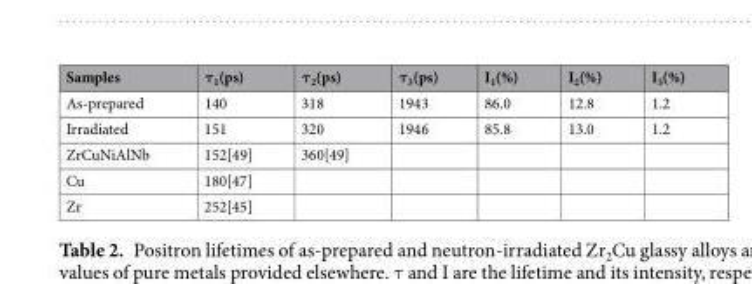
<table><thead><tr><td>Samples</td><td>τ<sub>1</sub>(ps)</td><td>τ<sub>2</sub>(ps)</td><td>τ<sub>3</sub>(ps)</td><td>I<sub>1</sub>(%)</td><td>I<sub>2</sub>(%)</td><td>I<sub>3</sub>(%)</td></tr></thead><tbody><tr><td>As-prepared</td><td>140</td><td>318</td><td>1943</td><td>86.0</td><td>12.8</td><td>1.2</td></tr><tr><td>Irradiated</td><td>151</td><td>320</td><td>1946</td><td>85.8</td><td>13.0</td><td>1.2</td></tr><tr><td>ZrCuNiAlNb</td><td>152[49]</td><td>360[49]</td><td></td><td></td><td></td><td></td></tr><tr><td>Cu</td><td>180[47]</td><td></td><td></td><td></td><td></td><td></td></tr><tr><td>Zr</td><td>252[45]</td><td></td><td></td><td></td><td></td><td></td></tr></tbody></table>